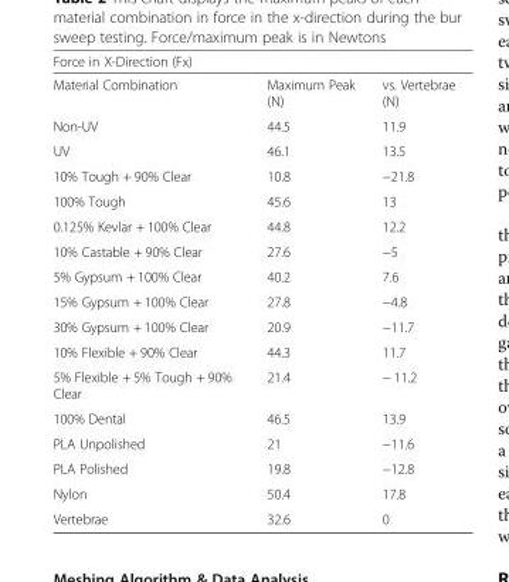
<table><thead><tr><td colspan="3">Force in X-Direction (Fx)</td></tr><tr><td>Material Combination</td><td>Maximum Peak (N)</td><td>vs. Vertebrae (N)</td></tr></thead><tbody><tr><td>Non-UV</td><td>44.5</td><td>11.9</td></tr><tr><td>UV</td><td>46.1</td><td>13.5</td></tr><tr><td>10% Tough + 90% Clear</td><td>10.8</td><td>−21.8</td></tr><tr><td>100% Tough</td><td>45.6</td><td>13</td></tr><tr><td>0.125% Kevlar + 100% Clear</td><td>44.8</td><td>12.2</td></tr><tr><td>10% Castable + 90% Clear</td><td>27.6</td><td>−5</td></tr><tr><td>5% Gypsum + 100% Clear</td><td>40.2</td><td>7.6</td></tr><tr><td>15% Gypsum + 100% Clear</td><td>27.8</td><td>−4.8</td></tr><tr><td>30% Gypsum + 100% Clear</td><td>20.9</td><td>−11.7</td></tr><tr><td>10% Flexible + 90% Clear</td><td>44.3</td><td>11.7</td></tr><tr><td>5% Flexible + 5% Tough + 90% Clear</td><td>21.4</td><td>− 11.2</td></tr><tr><td>100% Dental</td><td>46.5</td><td>13.9</td></tr><tr><td>PLA Unpolished</td><td>21</td><td>−11.6</td></tr><tr><td>PLA Polished</td><td>19.8</td><td>−12.8</td></tr><tr><td>Nylon</td><td>50.4</td><td>17.8</td></tr><tr><td>Vertebrae</td><td>32.6</td><td>0</td></tr></tbody></table>